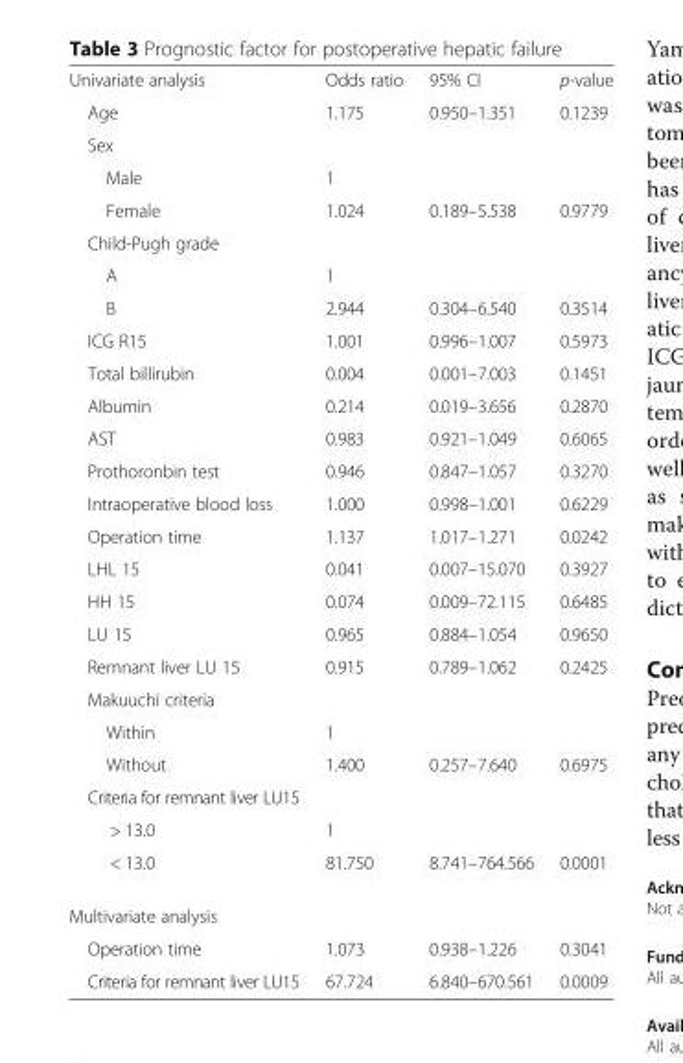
<table><tbody><tr><td>Univariate analysis</td><td>Odds ratio</td><td>95% CI</td><td>p-value</td></tr><tr><td>Age</td><td>1.175</td><td>0.950–1.351</td><td>0.1239</td></tr><tr><td colspan="4">Sex</td></tr><tr><td>Male</td><td>1</td><td></td><td></td></tr><tr><td>Female</td><td>1.024</td><td>0.189–5.538</td><td>0.9779</td></tr><tr><td colspan="4">Child-Pugh grade</td></tr><tr><td>A</td><td>1</td><td></td><td></td></tr><tr><td>B</td><td>2.944</td><td>0.304–6.540</td><td>0.3514</td></tr><tr><td>ICG R15</td><td>1.001</td><td>0.996–1.007</td><td>0.5973</td></tr><tr><td>Total billirubin</td><td>0.004</td><td>0.001–7.003</td><td>0.1451</td></tr><tr><td>Albumin</td><td>0.214</td><td>0.019–3.656</td><td>0.2870</td></tr><tr><td>AST</td><td>0.983</td><td>0.921–1.049</td><td>0.6065</td></tr><tr><td>Prothoronbin test</td><td>0.946</td><td>0.847–1.057</td><td>0.3270</td></tr><tr><td>Intraoperative blood loss</td><td>1.000</td><td>0.998–1.001</td><td>0.6229</td></tr><tr><td>Operation time</td><td>1.137</td><td>1.017–1.271</td><td>0.0242</td></tr><tr><td>LHL 15</td><td>0.041</td><td>0.007–15.070</td><td>0.3927</td></tr><tr><td>HH 15</td><td>0.074</td><td>0.009–72.115</td><td>0.6485</td></tr><tr><td>LU 15</td><td>0.965</td><td>0.884–1.054</td><td>0.9650</td></tr><tr><td>Remnant liver LU 15</td><td>0.915</td><td>0.789–1.062</td><td>0.2425</td></tr><tr><td colspan="4">Makuuchi criteria</td></tr><tr><td>Within</td><td>1</td><td></td><td></td></tr><tr><td>Without</td><td>1.400</td><td>0.257–7.640</td><td>0.6975</td></tr><tr><td colspan="4">Criteria for remnant liver LU15</td></tr><tr><td>&gt; 13.0</td><td>1</td><td></td><td></td></tr><tr><td>&lt; 13.0</td><td>81.750</td><td>8.741–764.566</td><td>0.0001</td></tr><tr><td colspan="4">Multivariate analysis</td></tr><tr><td>Operation time</td><td>1.073</td><td>0.938–1.226</td><td>0.3041</td></tr><tr><td>Criteria for remnant liver LU15</td><td>67.724</td><td>6.840–670.561</td><td>0.0009</td></tr></tbody></table>